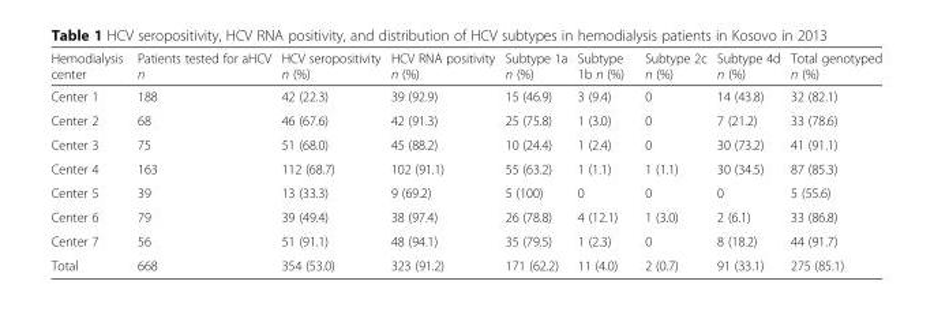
<table><thead><tr><td>Hemodialysis center</td><td>Patients tested for aHCV n</td><td>HCV seropositivity n (%)</td><td>HCV RNA positivity n (%)</td><td>Subtype 1a n (%)</td><td>Subtype 1b n (%)</td><td>Subtype 2c n (%)</td><td>Subtype 4d n (%)</td><td>Total genotyped n (%)</td></tr></thead><tbody><tr><td>Center 1</td><td>188</td><td>42 (22.3)</td><td>39 (92.9)</td><td>15 (46.9)</td><td>3 (9.4)</td><td>0</td><td>14 (43.8)</td><td>32 (82.1)</td></tr><tr><td>Center 2</td><td>68</td><td>46 (67.6)</td><td>42 (91.3)</td><td>25 (75.8)</td><td>1 (3.0)</td><td>0</td><td>7 (21.2)</td><td>33 (78.6)</td></tr><tr><td>Center 3</td><td>75</td><td>51 (68.0)</td><td>45 (88.2)</td><td>10 (24.4)</td><td>1 (2.4)</td><td>0</td><td>30 (73.2)</td><td>41 (91.1)</td></tr><tr><td>Center 4</td><td>163</td><td>112 (68.7)</td><td>102 (91.1)</td><td>55 (63.2)</td><td>1 (1.1)</td><td>1 (1.1)</td><td>30 (34.5)</td><td>87 (85.3)</td></tr><tr><td>Center 5</td><td>39</td><td>13 (33.3)</td><td>9 (69.2)</td><td>5 (100)</td><td>0</td><td>0</td><td>0</td><td>5 (55.6)</td></tr><tr><td>Center 6</td><td>79</td><td>39 (49.4)</td><td>38 (97.4)</td><td>26 (78.8)</td><td>4 (12.1)</td><td>1 (3.0)</td><td>2 (6.1)</td><td>33 (86.8)</td></tr><tr><td>Center 7</td><td>56</td><td>51 (91.1)</td><td>48 (94.1)</td><td>35 (79.5)</td><td>1 (2.3)</td><td>0</td><td>8 (18.2)</td><td>44 (91.7)</td></tr><tr><td>Total</td><td>668</td><td>354 (53.0)</td><td>323 (91.2)</td><td>171 (62.2)</td><td>11 (4.0)</td><td>2 (0.7)</td><td>91 (33.1)</td><td>275 (85.1)</td></tr></tbody></table>